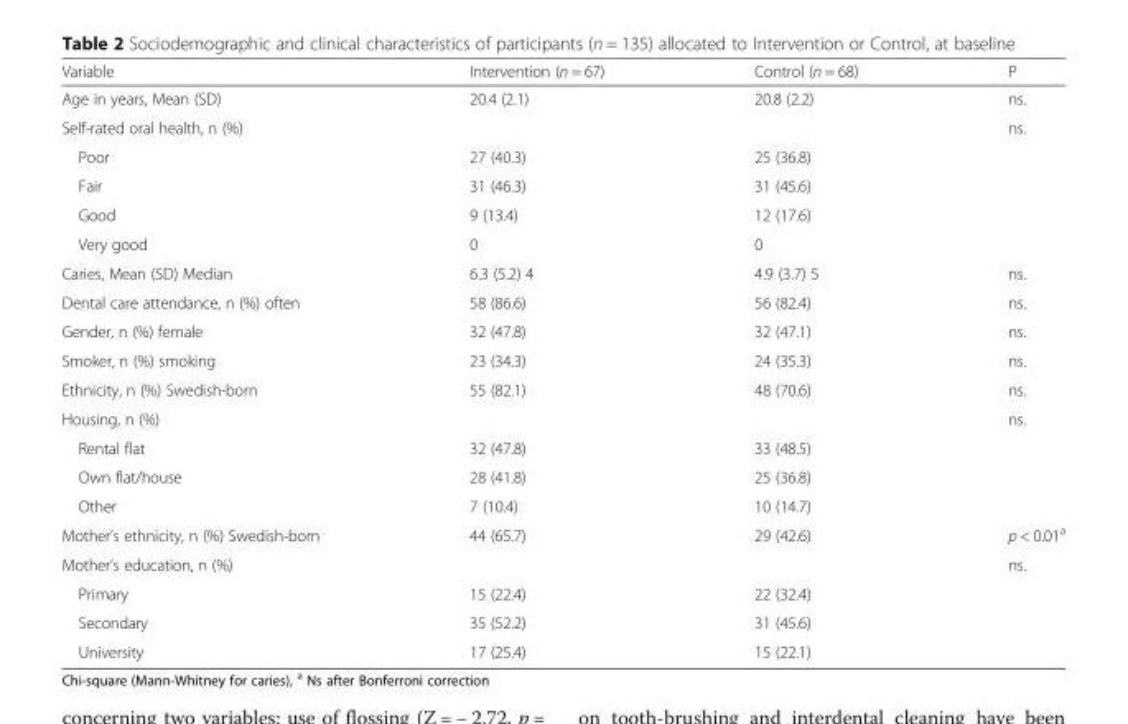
<table><thead><tr><td>Variable</td><td>Intervention (n = 67)</td><td>Control (n = 68)</td><td>P</td></tr></thead><tbody><tr><td>Age in years, Mean (SD)</td><td>20.4 (2.1)</td><td>20.8 (2.2)</td><td>ns.</td></tr><tr><td>Self-rated oral health, n (%)</td><td></td><td></td><td>ns.</td></tr><tr><td>Poor</td><td>27 (40.3)</td><td>25 (36.8)</td><td></td></tr><tr><td>Fair</td><td>31 (46.3)</td><td>31 (45.6)</td><td></td></tr><tr><td>Good</td><td>9 (13.4)</td><td>12 (17.6)</td><td></td></tr><tr><td>Very good</td><td>0</td><td>0</td><td></td></tr><tr><td>Caries, Mean (SD) Median</td><td>6.3 (5.2) 4</td><td>4.9 (3.7) 5</td><td>ns.</td></tr><tr><td>Dental care attendance, n (%) often</td><td>58 (86.6)</td><td>56 (82.4)</td><td>ns.</td></tr><tr><td>Gender, n (%) female</td><td>32 (47.8)</td><td>32 (47.1)</td><td>ns.</td></tr><tr><td>Smoker, n (%) smoking</td><td>23 (34.3)</td><td>24 (35.3)</td><td>ns.</td></tr><tr><td>Ethnicity, n (%) Swedish-born</td><td>55 (82.1)</td><td>48 (70.6)</td><td>ns.</td></tr><tr><td>Housing, n (%)</td><td></td><td></td><td>ns.</td></tr><tr><td>Rental flat</td><td>32 (47.8)</td><td>33 (48.5)</td><td></td></tr><tr><td>Own flat/house</td><td>28 (41.8)</td><td>25 (36.8)</td><td></td></tr><tr><td>Other</td><td>7 (10.4)</td><td>10 (14.7)</td><td></td></tr><tr><td>Mother’s ethnicity, n (%) Swedish-born</td><td>44 (65.7)</td><td>29 (42.6)</td><td>p &lt; 0.01<sup>a</sup></td></tr><tr><td>Mother’s education, n (%)</td><td></td><td></td><td>ns.</td></tr><tr><td>Primary</td><td>15 (22.4)</td><td>22 (32.4)</td><td></td></tr><tr><td>Secondary</td><td>35 (52.2)</td><td>31 (45.6)</td><td></td></tr><tr><td>University</td><td>17 (25.4)</td><td>15 (22.1)</td><td></td></tr></tbody></table>